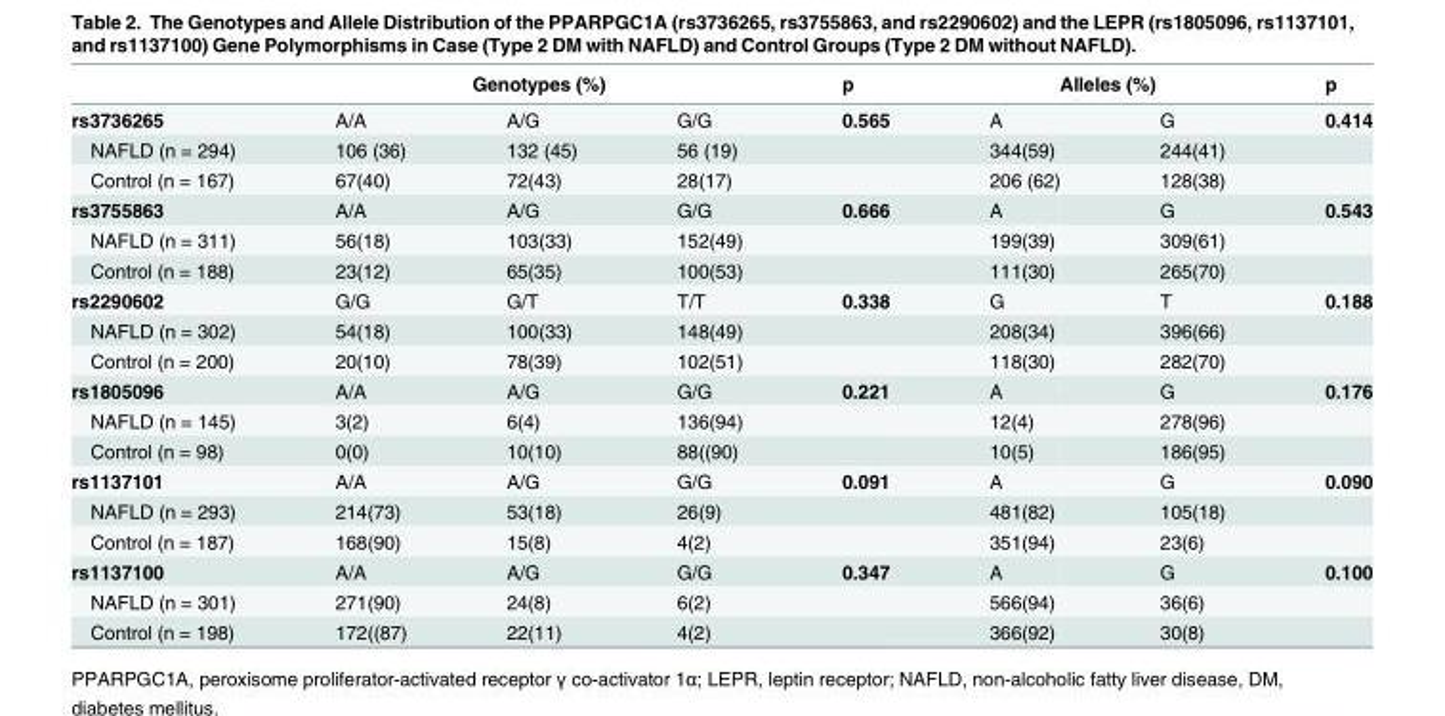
<table><thead><tr><td rowspan="2">rs3736265</td><td colspan="3">Genotypes (%)</td><td rowspan="2">p 0.565</td><td colspan="2">Alleles (%)</td><td rowspan="2">p 0.414</td></tr><tr><td>A/A</td><td>A/G</td><td>G/G</td><td>A</td><td>G</td></tr></thead><tbody><tr><td>NAFLD (n = 294)</td><td>106 (36)</td><td>132 (45)</td><td>56 (19)</td><td></td><td>344(59)</td><td>244(41)</td><td></td></tr><tr><td>Control (n = 167)</td><td>67(40)</td><td>72(43)</td><td>28(17)</td><td></td><td>206 (62)</td><td>128(38)</td><td></td></tr><tr><td>rs3755863</td><td>A/A</td><td>A/G</td><td>G/G</td><td>0.666</td><td>A</td><td>G</td><td>0.543</td></tr><tr><td>NAFLD (n = 311)</td><td>56(18)</td><td>103(33)</td><td>152(49)</td><td></td><td>199(39)</td><td>309(61)</td><td></td></tr><tr><td>Control (n = 188)</td><td>23(12)</td><td>65(35)</td><td>100(53)</td><td></td><td>111(30)</td><td>265(70)</td><td></td></tr><tr><td>rs2290602</td><td>G/G</td><td>G/T</td><td>T/T</td><td>0.338</td><td>G</td><td>T</td><td>0.188</td></tr><tr><td>NAFLD (n = 302)</td><td>54(18)</td><td>100(33)</td><td>148(49)</td><td></td><td>208(34)</td><td>396(66)</td><td></td></tr><tr><td>Control (n = 200)</td><td>20(10)</td><td>78(39)</td><td>102(51)</td><td></td><td>118(30)</td><td>282(70)</td><td></td></tr><tr><td>rs1805096</td><td>A/A</td><td>A/G</td><td>G/G</td><td>0.221</td><td>A</td><td>G</td><td>0.176</td></tr><tr><td>NAFLD (n = 145)</td><td>3(2)</td><td>6(4)</td><td>136(94)</td><td></td><td>12(4)</td><td>278(96)</td><td></td></tr><tr><td>Control (n = 98)</td><td>0(0)</td><td>10(10)</td><td>88((90)</td><td></td><td>10(5)</td><td>186(95)</td><td></td></tr><tr><td>rs1137101</td><td>A/A</td><td>A/G</td><td>G/G</td><td>0.091</td><td>A</td><td>G</td><td>0.090</td></tr><tr><td>NAFLD (n = 293)</td><td>214(73)</td><td>53(18)</td><td>26(9)</td><td></td><td>481(82)</td><td>105(18)</td><td></td></tr><tr><td>Control (n = 187)</td><td>168(90)</td><td>15(8)</td><td>4(2)</td><td></td><td>351(94)</td><td>23(6)</td><td></td></tr><tr><td>rs1137100</td><td>A/A</td><td>A/G</td><td>G/G</td><td>0.347</td><td>A</td><td>G</td><td>0.100</td></tr><tr><td>NAFLD (n = 301)</td><td>271(90)</td><td>24(8)</td><td>6(2)</td><td></td><td>566(94)</td><td>36(6)</td><td></td></tr><tr><td>Control (n = 198)</td><td>172((87)</td><td>22(11)</td><td>4(2)</td><td></td><td>366(92)</td><td>30(8)</td><td></td></tr></tbody></table>